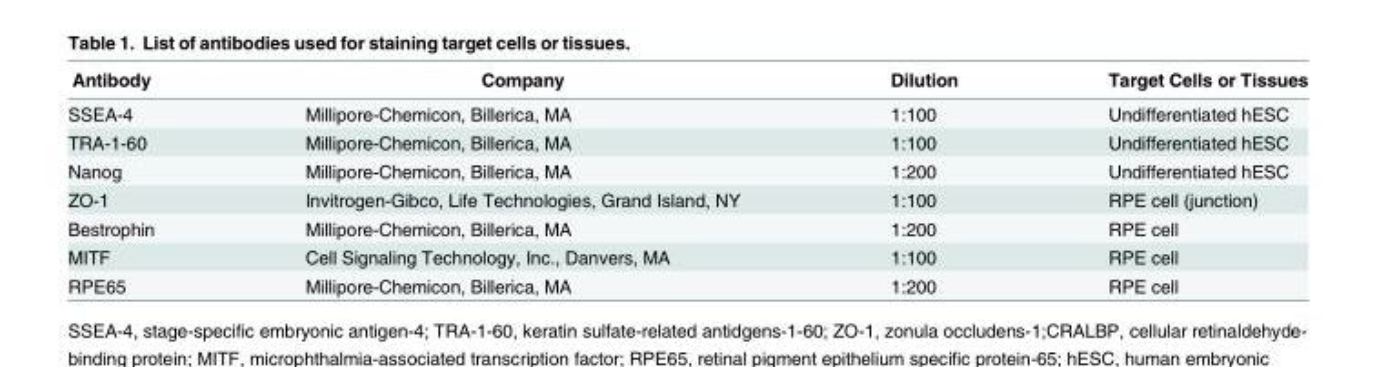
<table><thead><tr><td>Antibody</td><td>Company</td><td>Dilution</td><td>Target Cells or Tissues</td></tr></thead><tbody><tr><td>SSEA-4</td><td>Millipore-Chemicon, Billerica, MA</td><td>1:100</td><td>Undifferentiated hESC</td></tr><tr><td>TRA-1-60</td><td>Millipore-Chemicon, Billerica, MA</td><td>1:100</td><td>Undifferentiated hESC</td></tr><tr><td>Nanog</td><td>Millipore-Chemicon, Billerica, MA</td><td>1:200</td><td>Undifferentiated hESC</td></tr><tr><td>ZO-1</td><td>Invitrogen-Gibco, Life Technologies, Grand Island, NY</td><td>1:100</td><td>RPE cell (junction)</td></tr><tr><td>Bestrophin</td><td>Millipore-Chemicon, Billerica, MA</td><td>1:200</td><td>RPE cell</td></tr><tr><td>MITF</td><td>Cell Signaling Technology, Inc., Danvers, MA</td><td>1:100</td><td>RPE cell</td></tr><tr><td>RPE65</td><td>Millipore-Chemicon, Billerica, MA</td><td>1:200</td><td>RPE cell</td></tr></tbody></table>